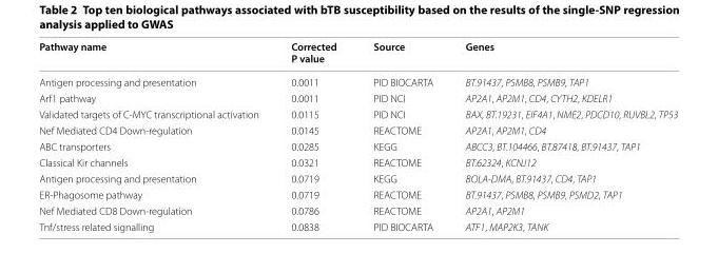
<table><thead><tr><td>Pathway name</td><td>Corrected P value</td><td>Source</td><td>Genes</td></tr></thead><tbody><tr><td>Antigen processing and presentation</td><td>0.0011</td><td>PID BIOCARTA</td><td>BT.91437, PSMB8, PSMB9, TAP1</td></tr><tr><td>Arf1 pathway</td><td>0.0011</td><td>PID NCI</td><td>AP2A1, AP2M1, CD4, CYTH2, KDELR1</td></tr><tr><td>Validated targets of C-MYC transcriptional activation</td><td>0.0115</td><td>PID NCI</td><td>BAX, BT.19231, EIF4A1, NME2, PDCD10, RUVBL2, TP53</td></tr><tr><td>Nef Mediated CD4 Down-regulation</td><td>0.0145</td><td>REACTOME</td><td>AP2A1, AP2M1, CD4</td></tr><tr><td>ABC transporters</td><td>0.0285</td><td>KEGG</td><td>ABCC3, BT.104466, BT.87418, BT.91437, TAP1</td></tr><tr><td>Classical Kir channels</td><td>0.0321</td><td>REACTOME</td><td>BT.62324, KCNJ12</td></tr><tr><td>Antigen processing and presentation</td><td>0.0719</td><td>KEGG</td><td>BOLA-DMA, BT.91437, CD4, TAP1</td></tr><tr><td>ER-Phagosome pathway</td><td>0.0719</td><td>REACTOME</td><td>BT.91437, PSMB8, PSMB9, PSMD2, TAP1</td></tr><tr><td>Nef Mediated CD8 Down-regulation</td><td>0.0786</td><td>REACTOME</td><td>AP2A1, AP2M1</td></tr><tr><td>Tnf/stress related signalling</td><td>0.0838</td><td>PID BIOCARTA</td><td>ATF1, MAP2K3, TANK</td></tr></tbody></table>